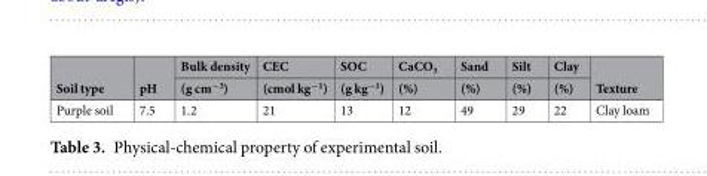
<table><thead><tr><td rowspan="2">Soil type</td><td rowspan="2">pH</td><td rowspan="2">Bulk density (g cm<sup>−3</sup>)</td><td rowspan="2">CEC (cmol kg<sup>−1</sup>)</td><td rowspan="2">SOC (g kg<sup>−1</sup>)</td><td rowspan="2">CaCO<sub>3</sub> (%)</td><td rowspan="2">Sand (%)</td><td rowspan="2">Silt (%)</td><td rowspan="2">Clay (%)</td><td rowspan="2">Texture</td></tr><tr></tr></thead><tbody><tr><td>Purple soil</td><td>7.5</td><td>1.2</td><td>21</td><td>13</td><td>12</td><td>49</td><td>29</td><td>22</td><td>Clay loam</td></tr></tbody></table>